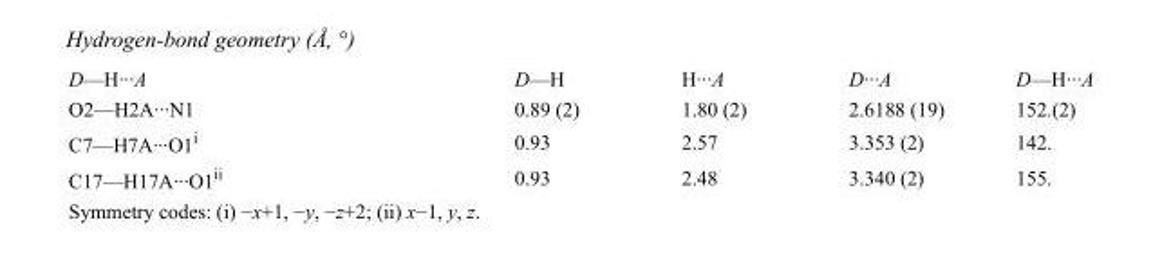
<table><tbody><tr><td>D—H···A</td><td>D—H</td><td>H···A</td><td>D···A</td><td>D—H···A</td></tr><tr><td>O2—H2A···N1</td><td>0.89 (2)</td><td>1.80 (2)</td><td>2.6188 (19)</td><td>152.(2)</td></tr><tr><td>C7—H7A···O1<sup>i</sup></td><td>0.93</td><td>2.57</td><td>3.353 (2)</td><td>142.</td></tr><tr><td>C17—H17A···O1<sup>ii</sup></td><td>0.93</td><td>2.48</td><td>3.340 (2)</td><td>155.</td></tr></tbody></table>